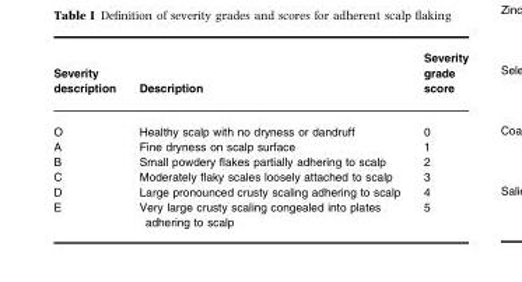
<table><thead><tr><td>Severity description</td><td>Description</td><td>Severity grade score</td></tr></thead><tbody><tr><td>O</td><td>Healthy scalp with no dryness or dandruff</td><td>0</td></tr><tr><td>A</td><td>Fine dryness on scalp surface</td><td>1</td></tr><tr><td>B</td><td>Small powdery flakes partially adhering to scalp</td><td>2</td></tr><tr><td>C</td><td>Moderately flaky scales loosely attached to scalp</td><td>3</td></tr><tr><td>D</td><td>Large pronounced crusty scaling adhering to scalp</td><td>4</td></tr><tr><td>E</td><td>Very large crusty scaling congealed into plates adhering to scalp</td><td>5</td></tr></tbody></table>